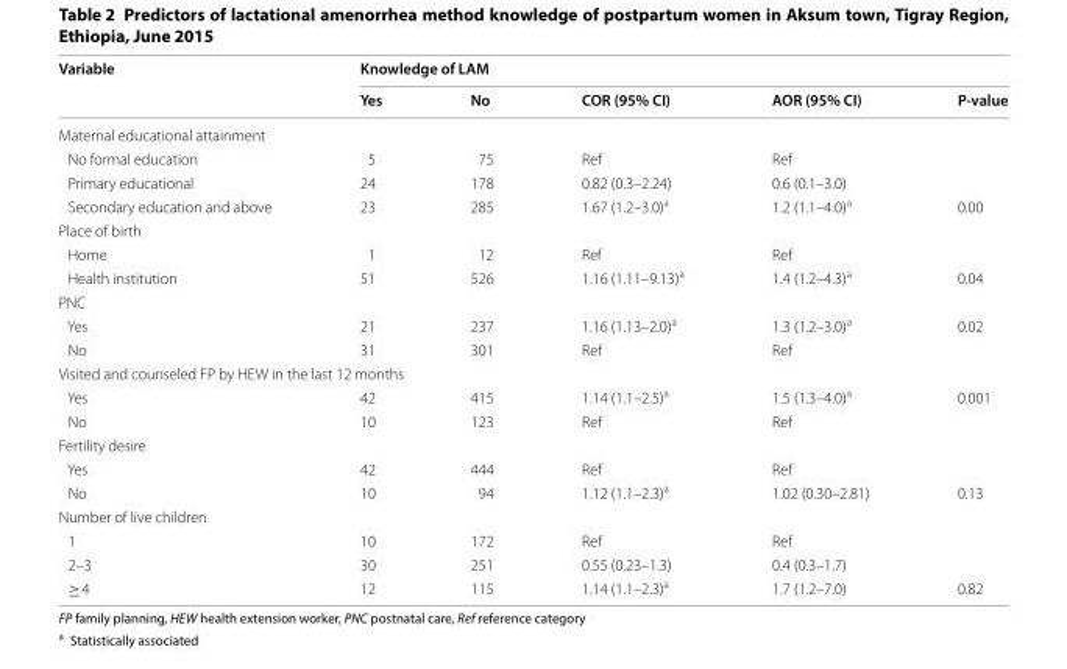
<table><thead><tr><td rowspan="2">Variable</td><td colspan="5">Knowledge of LAM</td></tr><tr><td>Yes</td><td>No</td><td>COR (95% CI)</td><td>AOR (95% CI)</td><td>P-value</td></tr></thead><tbody><tr><td colspan="6">Maternal educational attainment</td></tr><tr><td>No formal education</td><td>5</td><td>75</td><td>Ref</td><td>Ref</td><td></td></tr><tr><td>Primary educational</td><td>24</td><td>178</td><td>0.82 (0.3–2.24)</td><td>0.6 (0.1–3.0)</td><td></td></tr><tr><td>Secondary education and above</td><td>23</td><td>285</td><td>1.67 (1.2–3.0)<sup>a</sup></td><td>1.2 (1.1–4.0)<sup>a</sup></td><td>0.00</td></tr><tr><td colspan="6">Place of birth</td></tr><tr><td>Home</td><td>1</td><td>12</td><td>Ref</td><td>Ref</td><td></td></tr><tr><td>Health institution</td><td>51</td><td>526</td><td>1.16 (1.11–9.13)<sup>a</sup></td><td>1.4 (1.2–4.3)<sup>a</sup></td><td>0.04</td></tr><tr><td colspan="6">PNC</td></tr><tr><td>Yes</td><td>21</td><td>237</td><td>1.16 (1.13–2.0)<sup>a</sup></td><td>1.3 (1.2–3.0)<sup>a</sup></td><td>0.02</td></tr><tr><td>No</td><td>31</td><td>301</td><td>Ref</td><td>Ref</td><td></td></tr><tr><td colspan="6">Visited and counseled FP by HEW in the last 12 months</td></tr><tr><td>Yes</td><td>42</td><td>415</td><td>1.14 (1.1–2.5)<sup>a</sup></td><td>1.5 (1.3–4.0)<sup>a</sup></td><td>0.001</td></tr><tr><td>No</td><td>10</td><td>123</td><td>Ref</td><td>Ref</td><td></td></tr><tr><td colspan="6">Fertility desire</td></tr><tr><td>Yes</td><td>42</td><td>444</td><td>Ref</td><td>Ref</td><td></td></tr><tr><td>No</td><td>10</td><td>94</td><td>1.12 (1.1–2.3)<sup>a</sup></td><td>1.02 (0.30–2.81)</td><td>0.13</td></tr><tr><td colspan="6">Number of live children</td></tr><tr><td>1</td><td>10</td><td>172</td><td>Ref</td><td>Ref</td><td></td></tr><tr><td>2–3</td><td>30</td><td>251</td><td>0.55 (0.23–1.3)</td><td>0.4 (0.3–1.7)</td><td></td></tr><tr><td>≥ 4</td><td>12</td><td>115</td><td>1.14 (1.1–2.3)<sup>a</sup></td><td>1.7 (1.2–7.0)</td><td>0.82</td></tr></tbody></table>